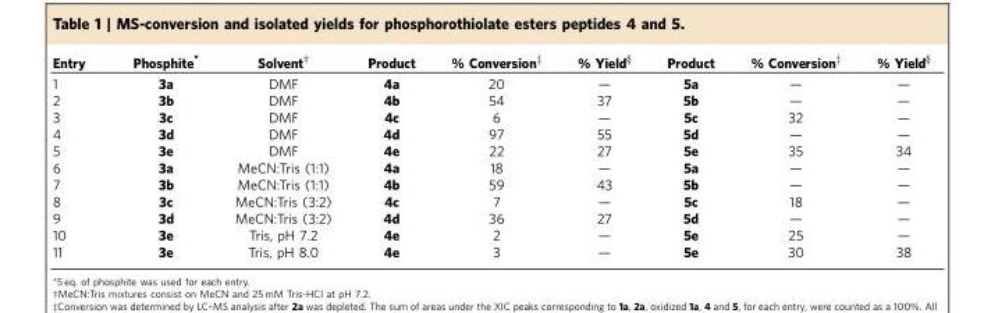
<table><thead><tr><td>Entry</td><td>Phosphite*</td><td>Solvent†</td><td>Product</td><td>% Conversion‡</td><td>% Yield§</td><td>Product</td><td>% Conversion‡</td><td>% Yield§</td></tr></thead><tbody><tr><td>1</td><td>3a</td><td>DMF</td><td>4a</td><td>20</td><td>—</td><td>5a</td><td>—</td><td>—</td></tr><tr><td>2</td><td>3b</td><td>DMF</td><td>4b</td><td>54</td><td>37</td><td>5b</td><td>—</td><td>—</td></tr><tr><td>3</td><td>3c</td><td>DMF</td><td>4c</td><td>6</td><td>—</td><td>5c</td><td>32</td><td>—</td></tr><tr><td>4</td><td>3d</td><td>DMF</td><td>4d</td><td>97</td><td>55</td><td>5d</td><td>—</td><td>—</td></tr><tr><td>5</td><td>3e</td><td>DMF</td><td>4e</td><td>22</td><td>27</td><td>5e</td><td>35</td><td>34</td></tr><tr><td>6</td><td>3a</td><td>MeCN:Tris (1:1)</td><td>4a</td><td>18</td><td>—</td><td>5a</td><td>—</td><td>—</td></tr><tr><td>7</td><td>3b</td><td>MeCN:Tris (1:1)</td><td>4b</td><td>59</td><td>43</td><td>5b</td><td>—</td><td>—</td></tr><tr><td>8</td><td>3c</td><td>MeCN:Tris (3:2)</td><td>4c</td><td>7</td><td>—</td><td>5c</td><td>18</td><td>—</td></tr><tr><td>9</td><td>3d</td><td>MeCN:Tris (3:2)</td><td>4d</td><td>36</td><td>27</td><td>5d</td><td>—</td><td>—</td></tr><tr><td>10</td><td>3e</td><td>Tris, pH 7.2</td><td>4e</td><td>2</td><td>—</td><td>5e</td><td>25</td><td>—</td></tr><tr><td>11</td><td>3e</td><td>Tris, pH 8.0</td><td>4e</td><td>3</td><td>—</td><td>5e</td><td>30</td><td>38</td></tr></tbody></table>